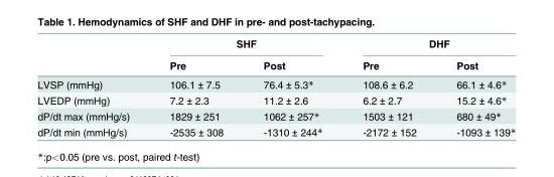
<table><thead><tr><td rowspan="2"></td><td colspan="2">SHF</td><td colspan="2">DHF</td></tr><tr><td>Pre</td><td>Post</td><td>Pre</td><td>Post</td></tr></thead><tbody><tr><td>LVSP (mmHg)</td><td>106.1 ± 7.5</td><td>76.4 ± 5.3*</td><td>108.6 ± 6.2</td><td>66.1 ± 4.6*</td></tr><tr><td>LVEDP (mmHg)</td><td>7.2 ± 2.3</td><td>11.2 ± 2.6</td><td>6.2 ± 2.7</td><td>15.2 ± 4.6*</td></tr><tr><td>dP/dt max (mmHg/s)</td><td>1829 ± 251</td><td>1062 ± 257*</td><td>1503 ± 121</td><td>680 ± 49*</td></tr><tr><td>dP/dt min (mmHg/s)</td><td>-2535 ± 308</td><td>-1310 ± 244*</td><td>-2172 ± 152</td><td>-1093 ± 139*</td></tr></tbody></table>